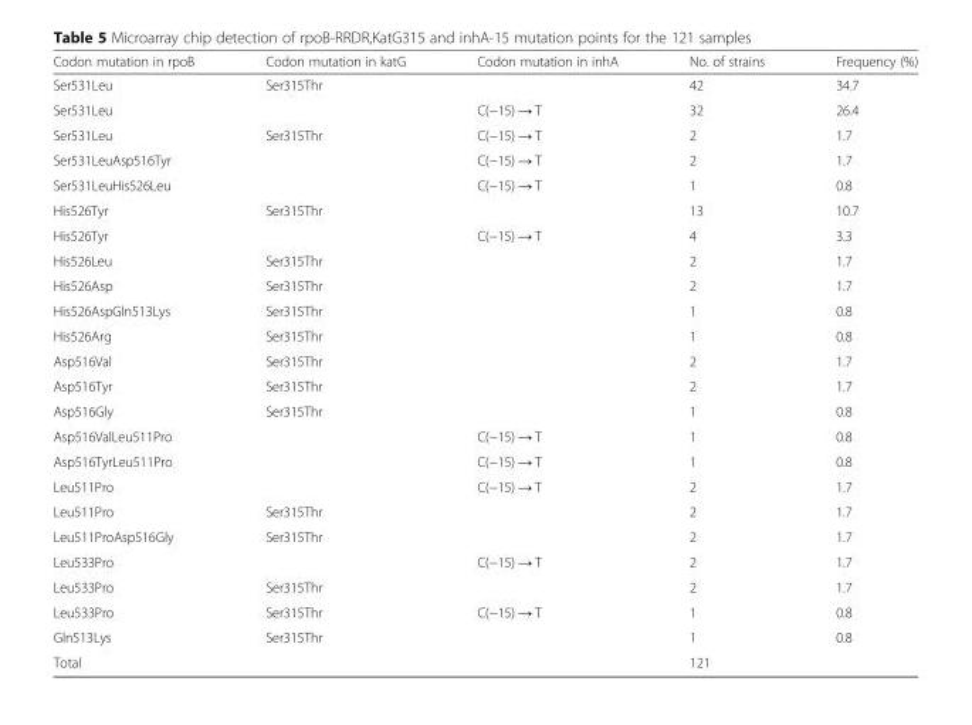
<table><thead><tr><td>Codon mutation in rpoB</td><td>Codon mutation in katG</td><td>Codon mutation in inhA</td><td>No. of strains</td><td>Frequency (%)</td></tr></thead><tbody><tr><td>Ser531Leu</td><td>Ser315Thr</td><td></td><td>42</td><td>34.7</td></tr><tr><td>Ser531Leu</td><td></td><td>C(−15) → T</td><td>32</td><td>26.4</td></tr><tr><td>Ser531Leu</td><td>Ser315Thr</td><td>C(−15) → T</td><td>2</td><td>1.7</td></tr><tr><td>Ser531LeuAsp516Tyr</td><td></td><td>C(−15) → T</td><td>2</td><td>1.7</td></tr><tr><td>Ser531LeuHis526Leu</td><td></td><td>C(−15) → T</td><td>1</td><td>0.8</td></tr><tr><td>His526Tyr</td><td>Ser315Thr</td><td></td><td>13</td><td>10.7</td></tr><tr><td>His526Tyr</td><td></td><td>C(−15) → T</td><td>4</td><td>3.3</td></tr><tr><td>His526Leu</td><td>Ser315Thr</td><td></td><td>2</td><td>1.7</td></tr><tr><td>His526Asp</td><td>Ser315Thr</td><td></td><td>2</td><td>1.7</td></tr><tr><td>His526AspGln513Lys</td><td>Ser315Thr</td><td></td><td>1</td><td>0.8</td></tr><tr><td>His526Arg</td><td>Ser315Thr</td><td></td><td>1</td><td>0.8</td></tr><tr><td>Asp516Val</td><td>Ser315Thr</td><td></td><td>2</td><td>1.7</td></tr><tr><td>Asp516Tyr</td><td>Ser315Thr</td><td></td><td>2</td><td>1.7</td></tr><tr><td>Asp516Gly</td><td>Ser315Thr</td><td></td><td>1</td><td>0.8</td></tr><tr><td>Asp516ValLeu511Pro</td><td></td><td>C(−15) → T</td><td>1</td><td>0.8</td></tr><tr><td>Asp516TyrLeu511Pro</td><td></td><td>C(−15) → T</td><td>1</td><td>0.8</td></tr><tr><td>Leu511Pro</td><td></td><td>C(−15) → T</td><td>2</td><td>1.7</td></tr><tr><td>Leu511Pro</td><td>Ser315Thr</td><td></td><td>2</td><td>1.7</td></tr><tr><td>Leu511ProAsp516Gly</td><td>Ser315Thr</td><td></td><td>2</td><td>1.7</td></tr><tr><td>Leu533Pro</td><td></td><td>C(−15) → T</td><td>2</td><td>1.7</td></tr><tr><td>Leu533Pro</td><td>Ser315Thr</td><td></td><td>2</td><td>1.7</td></tr><tr><td>Leu533Pro</td><td>Ser315Thr</td><td>C(−15) → T</td><td>1</td><td>0.8</td></tr><tr><td>Gln513Lys</td><td>Ser315Thr</td><td></td><td>1</td><td>0.8</td></tr><tr><td>Total</td><td></td><td></td><td>121</td><td></td></tr></tbody></table>